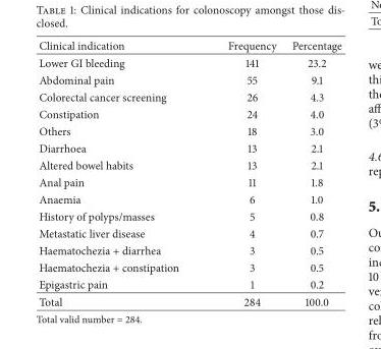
<table><thead><tr><td>Clinical indication</td><td>Frequency</td><td>Percentage</td></tr></thead><tbody><tr><td>Lower GI bleeding</td><td>141</td><td>23.2</td></tr><tr><td>Abdominal pain</td><td>55</td><td>9.1</td></tr><tr><td>Colorectal cancer screening</td><td>26</td><td>4.3</td></tr><tr><td>Constipation</td><td>24</td><td>4.0</td></tr><tr><td>Others</td><td>18</td><td>3.0</td></tr><tr><td>Diarrhoea</td><td>13</td><td>2.1</td></tr><tr><td>Altered bowel habits</td><td>13</td><td>2.1</td></tr><tr><td>Anal pain</td><td>11</td><td>1.8</td></tr><tr><td>Anaemia</td><td>6</td><td>1.0</td></tr><tr><td>History of polyps/masses</td><td>5</td><td>0.8</td></tr><tr><td>Metastatic liver disease</td><td>4</td><td>0.7</td></tr><tr><td>Haematochezia + diarrhea</td><td>3</td><td>0.5</td></tr><tr><td>Haematochezia + constipation</td><td>3</td><td>0.5</td></tr><tr><td>Epigastric pain</td><td>1</td><td>0.2</td></tr><tr><td>Total</td><td>284</td><td>100.0</td></tr></tbody></table>